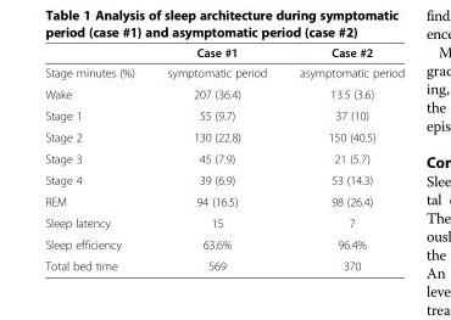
<table><thead><tr><td></td><td>Case #1</td><td>Case #2</td></tr></thead><tbody><tr><td>Stage minutes (%)</td><td>symptomatic period</td><td>asymptomatic period</td></tr><tr><td>Wake</td><td>207 (36.4)</td><td>13.5 (3.6)</td></tr><tr><td>Stage 1</td><td>55 (9.7)</td><td>37 (10)</td></tr><tr><td>Stage 2</td><td>130 (22.8)</td><td>150 (40.5)</td></tr><tr><td>Stage 3</td><td>45 (7.9)</td><td>21 (5.7)</td></tr><tr><td>Stage 4</td><td>39 (6.9)</td><td>53 (14.3)</td></tr><tr><td>REM</td><td>94 (16.5)</td><td>98 (26.4)</td></tr><tr><td>Sleep latency</td><td>15</td><td>7</td></tr><tr><td>Sleep efficiency</td><td>63.6%</td><td>96.4%</td></tr><tr><td>Total bed time</td><td>569</td><td>370</td></tr></tbody></table>